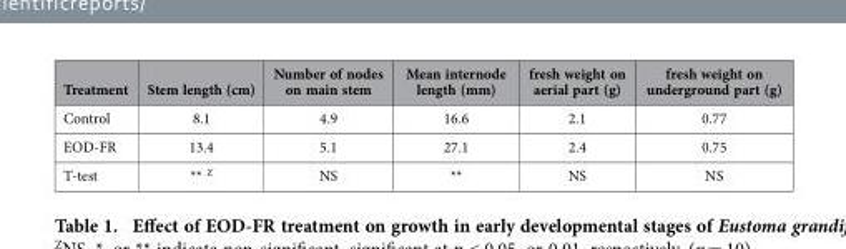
<table><thead><tr><td>Treatment</td><td>Stem length (cm)</td><td>Number of nodes on main stem</td><td>Mean internode length (mm)</td><td>fresh weight on aerial part (g)</td><td>fresh weight on underground part (g)</td></tr></thead><tbody><tr><td>Control</td><td>8.1</td><td>4.9</td><td>16.6</td><td>2.1</td><td>0.77</td></tr><tr><td>EOD-FR</td><td>13.4</td><td>5.1</td><td>27.1</td><td>2.4</td><td>0.75</td></tr><tr><td>T-test</td><td>** Z</td><td>NS</td><td>**</td><td>NS</td><td>NS</td></tr></tbody></table>